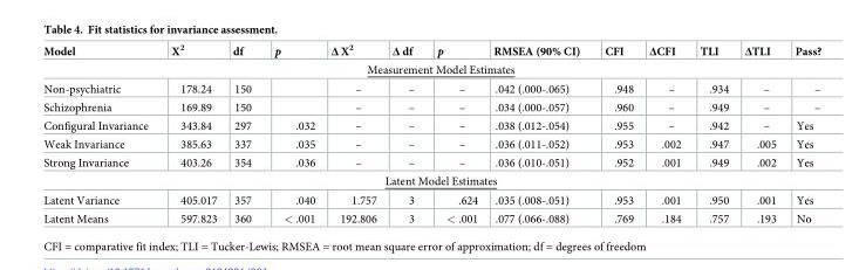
<table><thead><tr><td>Model</td><td>X<sup>2</sup></td><td>df</td><td>p</td><td>Δ X<sup>2</sup></td><td>Δ df</td><td>p</td><td>RMSEA (90% CI)</td><td>CFI</td><td>ΔCFI</td><td>TLI</td><td>ΔTLI</td><td>Pass?</td></tr></thead><tbody><tr><td colspan="13">Measurement Model Estimates</td></tr><tr><td>Non-psychiatric</td><td>178.24</td><td>150</td><td></td><td>–</td><td>–</td><td>–</td><td>.042 (.000-.065)</td><td>.948</td><td>–</td><td>.934</td><td>–</td><td>–</td></tr><tr><td>Schizophrenia</td><td>169.89</td><td>150</td><td></td><td>–</td><td>–</td><td>–</td><td>.034 (.000-.057)</td><td>.960</td><td>–</td><td>.949</td><td>–</td><td>–</td></tr><tr><td>Configural Invariance</td><td>343.84</td><td>297</td><td>.032</td><td>–</td><td>–</td><td>–</td><td>.038 (.012-.054)</td><td>.955</td><td>–</td><td>.942</td><td>–</td><td>Yes</td></tr><tr><td>Weak Invariance</td><td>385.63</td><td>337</td><td>.035</td><td>–</td><td>–</td><td>–</td><td>.036 (.011-.052)</td><td>.953</td><td>.002</td><td>.947</td><td>.005</td><td>Yes</td></tr><tr><td>Strong Invariance</td><td>403.26</td><td>354</td><td>.036</td><td>–</td><td>–</td><td>–</td><td>.036 (.010-.051)</td><td>.952</td><td>.001</td><td>.949</td><td>.002</td><td>Yes</td></tr><tr><td colspan="13">Latent Model Estimates</td></tr><tr><td>Latent Variance</td><td>405.017</td><td>357</td><td>.040</td><td>1.757</td><td>3</td><td>.624</td><td>.035 (.008-.051)</td><td>.953</td><td>.001</td><td>.950</td><td>.001</td><td>Yes</td></tr><tr><td>Latent Means</td><td>597.823</td><td>360</td><td>&lt; .001</td><td>192.806</td><td>3</td><td>&lt; .001</td><td>.077 (.066-.088)</td><td>.769</td><td>.184</td><td>.757</td><td>.193</td><td>No</td></tr></tbody></table>